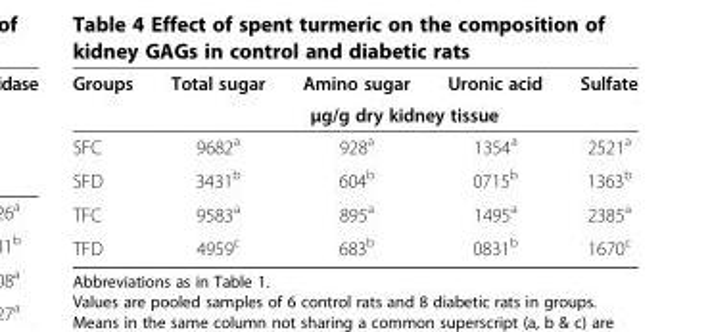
<table><thead><tr><td rowspan="2">Groups</td><td>Total sugar</td><td>Amino sugar</td><td>Uronic acid</td><td>Sulfate</td></tr><tr><td colspan="4">μg/g dry kidney tissue</td></tr></thead><tbody><tr><td>SFC</td><td>9682<sup>a</sup></td><td>928<sup>a</sup></td><td>1354<sup>a</sup></td><td>2521<sup>a</sup></td></tr><tr><td>SFD</td><td>3431<sup>b</sup></td><td>604<sup>b</sup></td><td>0715<sup>b</sup></td><td>1363<sup>b</sup></td></tr><tr><td>TFC</td><td>9583<sup>a</sup></td><td>895<sup>a</sup></td><td>1495<sup>a</sup></td><td>2385<sup>a</sup></td></tr><tr><td>TFD</td><td>4959<sup>c</sup></td><td>683<sup>b</sup></td><td>0831<sup>b</sup></td><td>1670<sup>c</sup></td></tr></tbody></table>